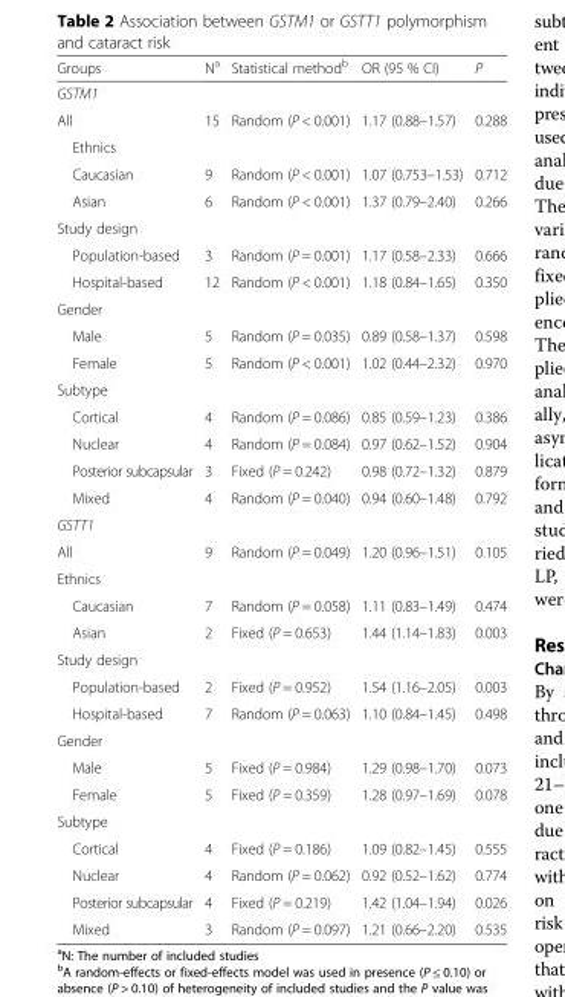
<table><thead><tr><td>Groups</td><td>N<sup>a</sup></td><td>Statistical method<sup>b</sup></td><td>OR (95 % CI)</td><td>P</td></tr></thead><tbody><tr><td colspan="5">GSTM1</td></tr><tr><td>All</td><td>15</td><td>Random (P &lt; 0.001)</td><td>1.17 (0.88–1.57)</td><td>0.288</td></tr><tr><td colspan="5">Ethnics</td></tr><tr><td>Caucasian</td><td>9</td><td>Random (P &lt; 0.001)</td><td>1.07 (0.753–1.53)</td><td>0.712</td></tr><tr><td>Asian</td><td>6</td><td>Random (P &lt; 0.001)</td><td>1.37 (0.79–2.40)</td><td>0.266</td></tr><tr><td colspan="5">Study design</td></tr><tr><td>Population-based</td><td>3</td><td>Random (P = 0.001)</td><td>1.17 (0.58–2.33)</td><td>0.666</td></tr><tr><td>Hospital-based</td><td>12</td><td>Random (P &lt; 0.001)</td><td>1.18 (0.84–1.65)</td><td>0.350</td></tr><tr><td colspan="5">Gender</td></tr><tr><td>Male</td><td>5</td><td>Random (P = 0.035)</td><td>0.89 (0.58–1.37)</td><td>0.598</td></tr><tr><td>Female</td><td>5</td><td>Random (P &lt; 0.001)</td><td>1.02 (0.44–2.32)</td><td>0.970</td></tr><tr><td colspan="5">Subtype</td></tr><tr><td>Cortical</td><td>4</td><td>Random (P = 0.086)</td><td>0.85 (0.59–1.23)</td><td>0.386</td></tr><tr><td>Nuclear</td><td>4</td><td>Random (P = 0.084)</td><td>0.97 (0.62–1.52)</td><td>0.904</td></tr><tr><td>Posterior subcapsular</td><td>3</td><td>Fixed (P = 0.242)</td><td>0.98 (0.72–1.32)</td><td>0.879</td></tr><tr><td>Mixed</td><td>4</td><td>Random (P = 0.040)</td><td>0.94 (0.60–1.48)</td><td>0.792</td></tr><tr><td colspan="5">GSTT1</td></tr><tr><td>All</td><td>9</td><td>Random (P = 0.049)</td><td>1.20 (0.96–1.51)</td><td>0.105</td></tr><tr><td colspan="5">Ethnics</td></tr><tr><td>Caucasian</td><td>7</td><td>Random (P = 0.058)</td><td>1.11 (0.83–1.49)</td><td>0.474</td></tr><tr><td>Asian</td><td>2</td><td>Fixed (P = 0.653)</td><td>1.44 (1.14–1.83)</td><td>0.003</td></tr><tr><td colspan="5">Study design</td></tr><tr><td>Population-based</td><td>2</td><td>Fixed (P = 0.952)</td><td>1.54 (1.16–2.05)</td><td>0.003</td></tr><tr><td>Hospital-based</td><td>7</td><td>Random (P = 0.063)</td><td>1.10 (0.84–1.45)</td><td>0.498</td></tr><tr><td colspan="5">Gender</td></tr><tr><td>Male</td><td>5</td><td>Fixed (P = 0.984)</td><td>1.29 (0.98–1.70)</td><td>0.073</td></tr><tr><td>Female</td><td>5</td><td>Fixed (P = 0.359)</td><td>1.28 (0.97–1.69)</td><td>0.078</td></tr><tr><td colspan="5">Subtype</td></tr><tr><td>Cortical</td><td>4</td><td>Fixed (P = 0.186)</td><td>1.09 (0.82–1.45)</td><td>0.555</td></tr><tr><td>Nuclear</td><td>4</td><td>Random (P = 0.062)</td><td>0.92 (0.52–1.62)</td><td>0.774</td></tr><tr><td>Posterior subcapsular</td><td>4</td><td>Fixed (P = 0.219)</td><td>1.42 (1.04–1.94)</td><td>0.026</td></tr><tr><td>Mixed</td><td>3</td><td>Random (P = 0.097)</td><td>1.21 (0.66–2.20)</td><td>0.535</td></tr></tbody></table>